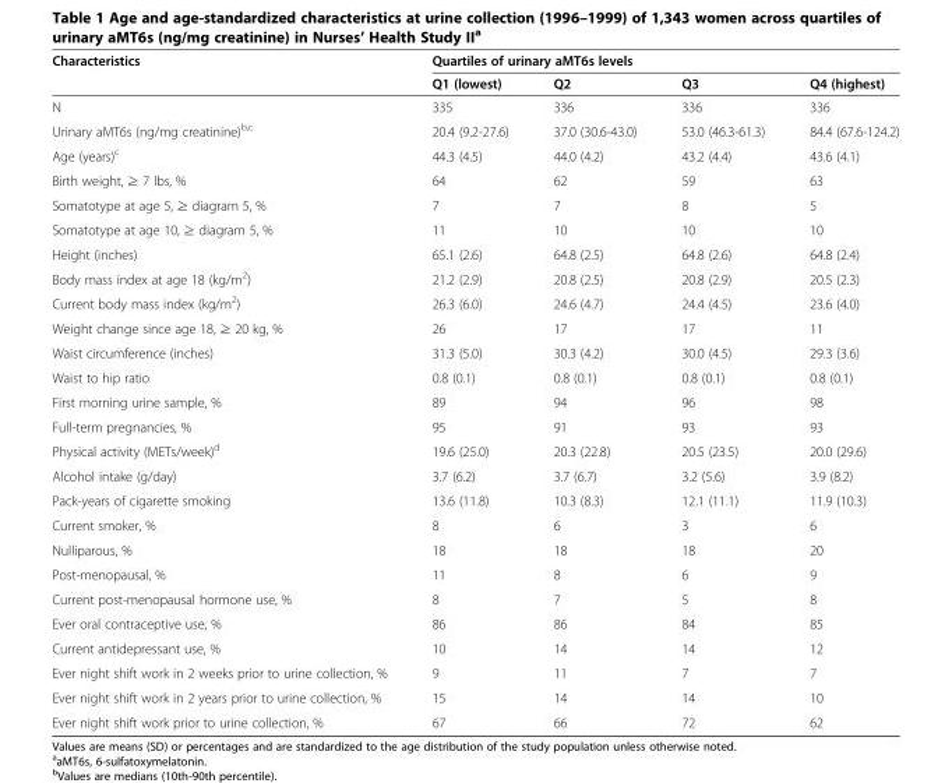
<table><thead><tr><td rowspan="2">Characteristics</td><td colspan="4">Quartiles of urinary aMT6s levels</td></tr><tr><td>Q1 (lowest)</td><td>Q2</td><td>Q3</td><td>Q4 (highest)</td></tr></thead><tbody><tr><td>N</td><td>335</td><td>336</td><td>336</td><td>336</td></tr><tr><td>Urinary aMT6s (ng/mg creatinine)<sup>b,c</sup></td><td>20.4 (9.2-27.6)</td><td>37.0 (30.6-43.0)</td><td>53.0 (46.3-61.3)</td><td>84.4 (67.6-124.2)</td></tr><tr><td>Age (years)<sup>c</sup></td><td>44.3 (4.5)</td><td>44.0 (4.2)</td><td>43.2 (4.4)</td><td>43.6 (4.1)</td></tr><tr><td>Birth weight, ≥ 7 lbs, %</td><td>64</td><td>62</td><td>59</td><td>63</td></tr><tr><td>Somatotype at age 5, ≥ diagram 5, %</td><td>7</td><td>7</td><td>8</td><td>5</td></tr><tr><td>Somatotype at age 10, ≥ diagram 5, %</td><td>11</td><td>10</td><td>10</td><td>10</td></tr><tr><td>Height (inches)</td><td>65.1 (2.6)</td><td>64.8 (2.5)</td><td>64.8 (2.6)</td><td>64.8 (2.4)</td></tr><tr><td>Body mass index at age 18 (kg/m<sup>2</sup>)</td><td>21.2 (2.9)</td><td>20.8 (2.5)</td><td>20.8 (2.9)</td><td>20.5 (2.3)</td></tr><tr><td>Current body mass index (kg/m<sup>2</sup>)</td><td>26.3 (6.0)</td><td>24.6 (4.7)</td><td>24.4 (4.5)</td><td>23.6 (4.0)</td></tr><tr><td>Weight change since age 18, ≥ 20 kg, %</td><td>26</td><td>17</td><td>17</td><td>11</td></tr><tr><td>Waist circumference (inches)</td><td>31.3 (5.0)</td><td>30.3 (4.2)</td><td>30.0 (4.5)</td><td>29.3 (3.6)</td></tr><tr><td>Waist to hip ratio</td><td>0.8 (0.1)</td><td>0.8 (0.1)</td><td>0.8 (0.1)</td><td>0.8 (0.1)</td></tr><tr><td>First morning urine sample, %</td><td>89</td><td>94</td><td>96</td><td>98</td></tr><tr><td>Full-term pregnancies, %</td><td>95</td><td>91</td><td>93</td><td>93</td></tr><tr><td>Physical activity (METs/week)<sup>d</sup></td><td>19.6 (25.0)</td><td>20.3 (22.8)</td><td>20.5 (23.5)</td><td>20.0 (29.6)</td></tr><tr><td>Alcohol intake (g/day)</td><td>3.7 (6.2)</td><td>3.7 (6.7)</td><td>3.2 (5.6)</td><td>3.9 (8.2)</td></tr><tr><td>Pack-years of cigarette smoking</td><td>13.6 (11.8)</td><td>10.3 (8.3)</td><td>12.1 (11.1)</td><td>11.9 (10.3)</td></tr><tr><td>Current smoker, %</td><td>8</td><td>6</td><td>3</td><td>6</td></tr><tr><td>Nulliparous, %</td><td>18</td><td>18</td><td>18</td><td>20</td></tr><tr><td>Post-menopausal, %</td><td>11</td><td>8</td><td>6</td><td>9</td></tr><tr><td>Current post-menopausal hormone use, %</td><td>8</td><td>7</td><td>5</td><td>8</td></tr><tr><td>Ever oral contraceptive use, %</td><td>86</td><td>86</td><td>84</td><td>85</td></tr><tr><td>Current antidepressant use, %</td><td>10</td><td>14</td><td>14</td><td>12</td></tr><tr><td>Ever night shift work in 2 weeks prior to urine collection, %</td><td>9</td><td>11</td><td>7</td><td>7</td></tr><tr><td>Ever night shift work in 2 years prior to urine collection, %</td><td>15</td><td>14</td><td>14</td><td>10</td></tr><tr><td>Ever night shift work prior to urine collection, %</td><td>67</td><td>66</td><td>72</td><td>62</td></tr></tbody></table>